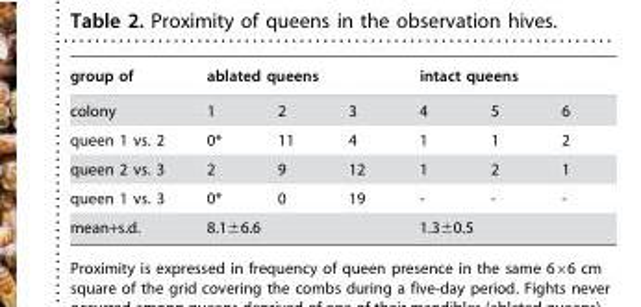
<table><thead><tr><td rowspan="2">group of colony</td><td colspan="3">ablated queens</td><td colspan="3">intact queens</td></tr><tr><td>1</td><td>2</td><td>3</td><td>4</td><td>5</td><td>6</td></tr></thead><tbody><tr><td>queen 1 vs. 2</td><td>0*</td><td>11</td><td>4</td><td>1</td><td>1</td><td>2</td></tr><tr><td>queen 2 vs. 3</td><td>2</td><td>9</td><td>12</td><td>1</td><td>2</td><td>1</td></tr><tr><td>queen 1 vs. 3</td><td>0*</td><td>0</td><td>19</td><td>-</td><td>-</td><td>-</td></tr><tr><td>mean+s.d.</td><td colspan="3">8.1±6.6</td><td colspan="3">1.3±0.5</td></tr></tbody></table>